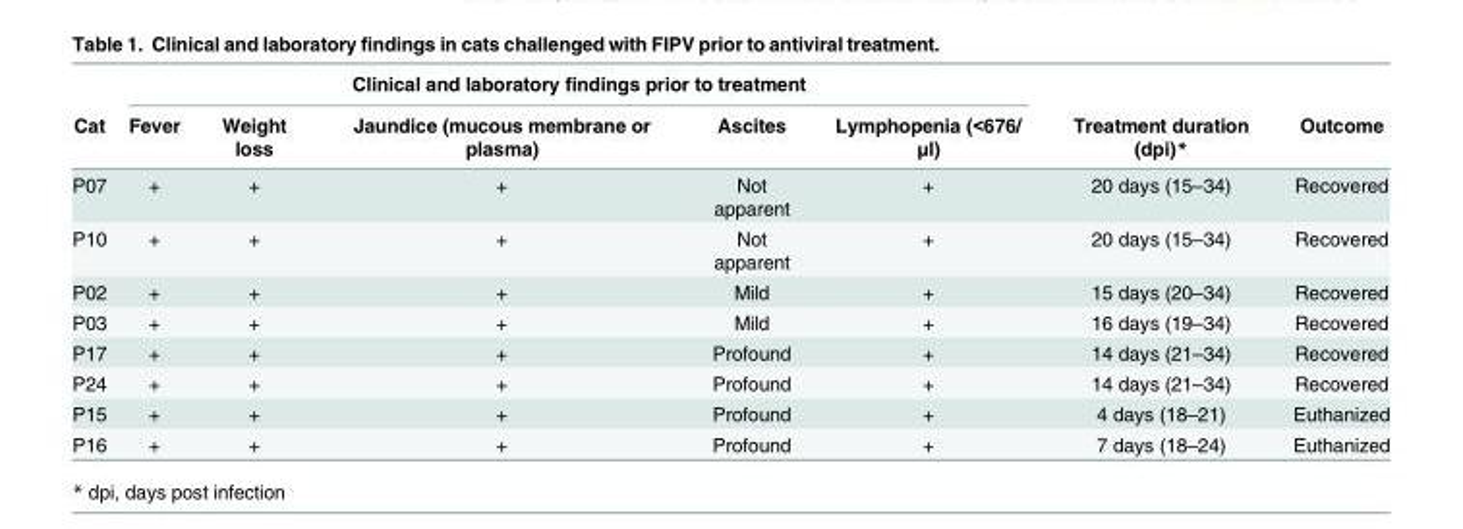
<table><thead><tr><td rowspan="2">Cat</td><td colspan="5">Clinical and laboratory findings prior to treatment</td><td rowspan="2">Treatment duration (dpi)*</td><td rowspan="2">Outcome</td></tr><tr><td>Fever</td><td>Weight loss</td><td>Jaundice (mucous membrane or plasma)</td><td>Ascites</td><td>Lymphopenia (&lt;676/ μl)</td></tr></thead><tbody><tr><td>P07</td><td>+</td><td>+</td><td>+</td><td>Not apparent</td><td>+</td><td>20 days (15–34)</td><td>Recovered</td></tr><tr><td>P10</td><td>+</td><td>+</td><td>+</td><td>Not apparent</td><td>+</td><td>20 days (15–34)</td><td>Recovered</td></tr><tr><td>P02</td><td>+</td><td>+</td><td>+</td><td>Mild</td><td>+</td><td>15 days (20–34)</td><td>Recovered</td></tr><tr><td>P03</td><td>+</td><td>+</td><td>+</td><td>Mild</td><td>+</td><td>16 days (19–34)</td><td>Recovered</td></tr><tr><td>P17</td><td>+</td><td>+</td><td>+</td><td>Profound</td><td>+</td><td>14 days (21–34)</td><td>Recovered</td></tr><tr><td>P24</td><td>+</td><td>+</td><td>+</td><td>Profound</td><td>+</td><td>14 days (21–34)</td><td>Recovered</td></tr><tr><td>P15</td><td>+</td><td>+</td><td>+</td><td>Profound</td><td>+</td><td>4 days (18–21)</td><td>Euthanized</td></tr><tr><td>P16</td><td>+</td><td>+</td><td>+</td><td>Profound</td><td>+</td><td>7 days (18–24)</td><td>Euthanized</td></tr></tbody></table>